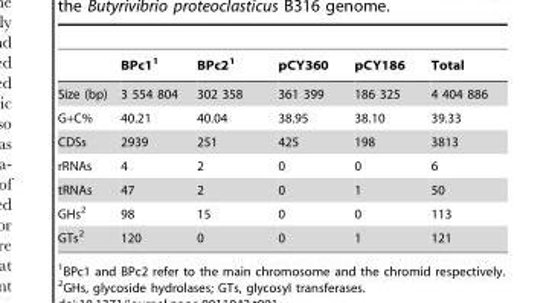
<table><thead><tr><td></td><td>BPc1<sup>1</sup></td><td>BPc2<sup>1</sup></td><td>pCY360</td><td>pCY186</td><td>Total</td></tr></thead><tbody><tr><td>Size (bp)</td><td>3 554 804</td><td>302 358</td><td>361 399</td><td>186 325</td><td>4 404 886</td></tr><tr><td>G+C%</td><td>40.21</td><td>40.04</td><td>38.95</td><td>38.10</td><td>39.33</td></tr><tr><td>CDSs</td><td>2939</td><td>251</td><td>425</td><td>198</td><td>3813</td></tr><tr><td>rRNAs</td><td>4</td><td>2</td><td>0</td><td>0</td><td>6</td></tr><tr><td>tRNAs</td><td>47</td><td>2</td><td>0</td><td>1</td><td>50</td></tr><tr><td>GHs<sup>2</sup></td><td>98</td><td>15</td><td>0</td><td>0</td><td>113</td></tr><tr><td>GTs<sup>2</sup></td><td>120</td><td>0</td><td>0</td><td>1</td><td>121</td></tr></tbody></table>